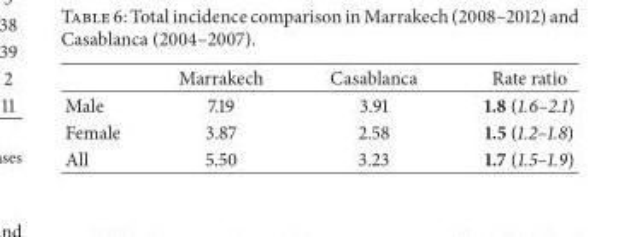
<table><thead><tr><td></td><td>Marrakech</td><td>Casablanca</td><td>Rate ratio</td></tr></thead><tbody><tr><td>Male</td><td>7.19</td><td>3.91</td><td>1.8 (1.6–2.1)</td></tr><tr><td>Female</td><td>3.87</td><td>2.58</td><td>1.5 (1.2–1.8)</td></tr><tr><td>All</td><td>5.50</td><td>3.23</td><td>1.7 (1.5–1.9)</td></tr></tbody></table>